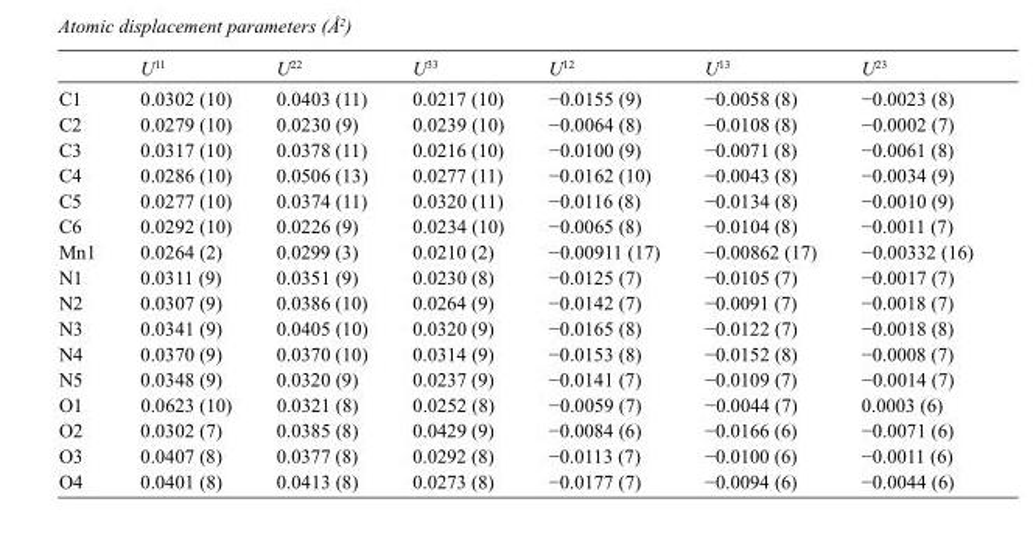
<table><thead><tr><td></td><td>U<sup>11</sup></td><td>U<sup>22</sup></td><td>U<sup>33</sup></td><td>U<sup>12</sup></td><td>U<sup>13</sup></td><td>U<sup>23</sup></td></tr></thead><tbody><tr><td>C1</td><td>0.0302 (10)</td><td>0.0403 (11)</td><td>0.0217 (10)</td><td>−0.0155 (9)</td><td>−0.0058 (8)</td><td>−0.0023 (8)</td></tr><tr><td>C2</td><td>0.0279 (10)</td><td>0.0230 (9)</td><td>0.0239 (10)</td><td>−0.0064 (8)</td><td>−0.0108 (8)</td><td>−0.0002 (7)</td></tr><tr><td>C3</td><td>0.0317 (10)</td><td>0.0378 (11)</td><td>0.0216 (10)</td><td>−0.0100 (9)</td><td>−0.0071 (8)</td><td>−0.0061 (8)</td></tr><tr><td>C4</td><td>0.0286 (10)</td><td>0.0506 (13)</td><td>0.0277 (11)</td><td>−0.0162 (10)</td><td>−0.0043 (8)</td><td>−0.0034 (9)</td></tr><tr><td>C5</td><td>0.0277 (10)</td><td>0.0374 (11)</td><td>0.0320 (11)</td><td>−0.0116 (8)</td><td>−0.0134 (8)</td><td>−0.0010 (9)</td></tr><tr><td>C6</td><td>0.0292 (10)</td><td>0.0226 (9)</td><td>0.0234 (10)</td><td>−0.0065 (8)</td><td>−0.0104 (8)</td><td>−0.0011 (7)</td></tr><tr><td>Mn1</td><td>0.0264 (2)</td><td>0.0299 (3)</td><td>0.0210 (2)</td><td>−0.00911 (17)</td><td>−0.00862 (17)</td><td>−0.00332 (16)</td></tr><tr><td>N1</td><td>0.0311 (9)</td><td>0.0351 (9)</td><td>0.0230 (8)</td><td>−0.0125 (7)</td><td>−0.0105 (7)</td><td>−0.0017 (7)</td></tr><tr><td>N2</td><td>0.0307 (9)</td><td>0.0386 (10)</td><td>0.0264 (9)</td><td>−0.0142 (7)</td><td>−0.0091 (7)</td><td>−0.0018 (7)</td></tr><tr><td>N3</td><td>0.0341 (9)</td><td>0.0405 (10)</td><td>0.0320 (9)</td><td>−0.0165 (8)</td><td>−0.0122 (7)</td><td>−0.0018 (8)</td></tr><tr><td>N4</td><td>0.0370 (9)</td><td>0.0370 (10)</td><td>0.0314 (9)</td><td>−0.0153 (8)</td><td>−0.0152 (8)</td><td>−0.0008 (7)</td></tr><tr><td>N5</td><td>0.0348 (9)</td><td>0.0320 (9)</td><td>0.0237 (9)</td><td>−0.0141 (7)</td><td>−0.0109 (7)</td><td>−0.0014 (7)</td></tr><tr><td>O1</td><td>0.0623 (10)</td><td>0.0321 (8)</td><td>0.0252 (8)</td><td>−0.0059 (7)</td><td>−0.0044 (7)</td><td>0.0003 (6)</td></tr><tr><td>O2</td><td>0.0302 (7)</td><td>0.0385 (8)</td><td>0.0429 (9)</td><td>−0.0084 (6)</td><td>−0.0166 (6)</td><td>−0.0071 (6)</td></tr><tr><td>O3</td><td>0.0407 (8)</td><td>0.0377 (8)</td><td>0.0292 (8)</td><td>−0.0113 (7)</td><td>−0.0100 (6)</td><td>−0.0011 (6)</td></tr><tr><td>O4</td><td>0.0401 (8)</td><td>0.0413 (8)</td><td>0.0273 (8)</td><td>−0.0177 (7)</td><td>−0.0094 (6)</td><td>−0.0044 (6)</td></tr></tbody></table>